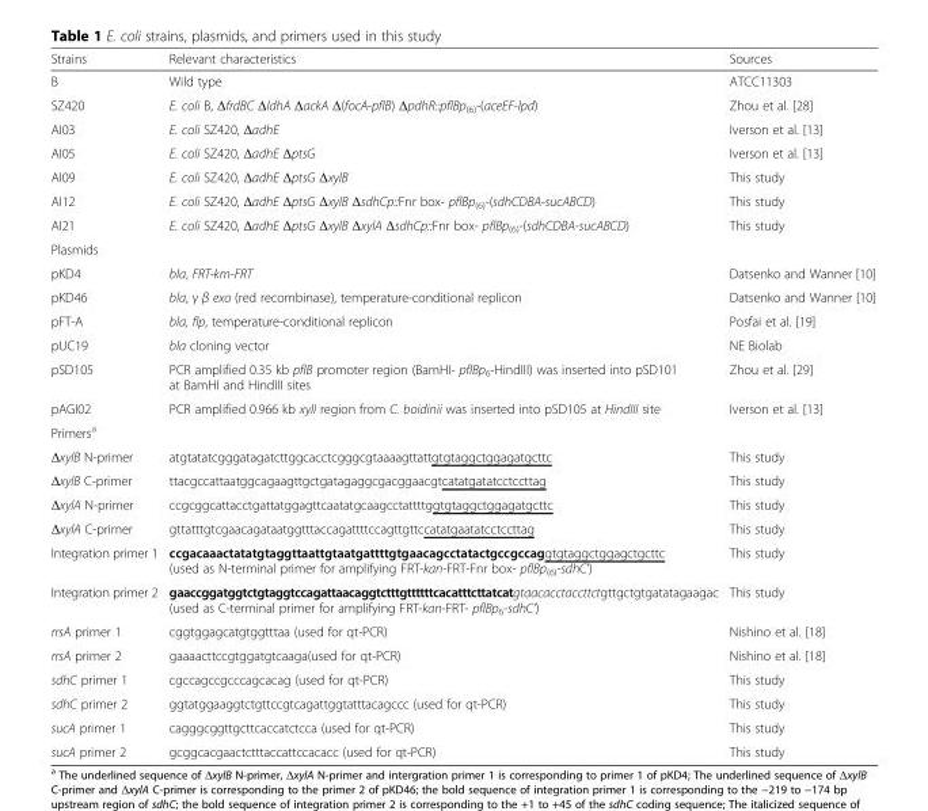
<table><thead><tr><td>Strains</td><td>Relevant characteristics</td><td>Sources</td></tr></thead><tbody><tr><td>B</td><td>Wild type</td><td>ATCC11303</td></tr><tr><td>SZ420</td><td>E. coli B, ΔfrdBC ΔldhA ΔackA Δ(focA-pflB) ΔpdhR::pflBp<sub>(6)</sub>-(aceEF-lpd)</td><td>Zhou et al. [28]</td></tr><tr><td>AI03</td><td>E. coli SZ420, ΔadhE</td><td>Iverson et al. [13]</td></tr><tr><td>AI05</td><td>E. coli SZ420, ΔadhE ΔptsG</td><td>Iverson et al. [13]</td></tr><tr><td>AI09</td><td>E. coli SZ420, ΔadhE ΔptsG ΔxylB</td><td>This study</td></tr><tr><td>AI12</td><td>E. coli SZ420, ΔadhE ΔptsG ΔxylB ΔsdhCp::Fnr box- pflBp<sub>(6)</sub>-(sdhCDBA-sucABCD)</td><td>This study</td></tr><tr><td>AI21</td><td>E. coli SZ420, ΔadhE ΔptsG ΔxylB ΔxylA ΔsdhCp::Fnr box- pflBp<sub>(6)</sub>-(sdhCDBA-sucABCD)</td><td>This study</td></tr><tr><td colspan="3">Plasmids</td></tr><tr><td>pKD4</td><td>bla, FRT-km-FRT</td><td>Datsenko and Wanner [10]</td></tr><tr><td>pKD46</td><td>bla, γ β exo (red recombinase), temperature-conditional replicon</td><td>Datsenko and Wanner [10]</td></tr><tr><td>pFT-A</td><td>bla, flp, temperature-conditional replicon</td><td>Posfai et al. [19]</td></tr><tr><td>pUC19</td><td>bla cloning vector</td><td>NE Biolab</td></tr><tr><td>pSD105</td><td>PCR amplified 0.35 kb pflB promoter region (BamHI- pflBp<sub>6</sub>-HindIII) was inserted into pSD101 at BamHI and HindIII sites</td><td>Zhou et al. [29]</td></tr><tr><td>pAGI02</td><td>PCR amplified 0.966 kb xylI region from C. boidinii was inserted into pSD105 at HindIII site</td><td>Iverson et al. [13]</td></tr><tr><td colspan="3">Primers<sup>a</sup></td></tr><tr><td>ΔxylB N-primer</td><td>atgtatatcgggatagatcttggcacctcgggcgtaaaagttattgtgtaggctggagatgcttc</td><td>This study</td></tr><tr><td>ΔxylB C-primer</td><td>ttacgccattaatggcagaagttgctgatagaggcgacggaacgtcatatgatatcctccttag</td><td>This study</td></tr><tr><td>ΔxylA N-primer</td><td>ccgcggcattacctgattatggagttcaatatgcaagcctattttggtgtaggctggagatgcttc</td><td>This study</td></tr><tr><td>ΔxylA C-primer</td><td>gttatttgtcgaacagataatggtttaccagattttccagttgttccatatgaatatcctccttag</td><td>This study</td></tr><tr><td>Integration primer 1</td><td>ccgacaaactatatgtaggttaattgtaatgattttgtgaacagcctatactgccgccaggtgtaggctggagctgcttc (used as N-terminal primer for amplifying FRT-kan-FRT-Fnr box- pflBp<sub>(6)</sub>-sdhC’)</td><td>This study</td></tr><tr><td>Integration primer 2</td><td>gaaccggatggtctgtaggtccagattaacaggtctttgttttttcacatttcttatcatgtaacacctaccttctgttgctgtgatatagaagac (used as C-terminal primer for amplifying FRT-kan-FRT- pflBp<sub>6</sub>-sdhC’)</td><td>This study</td></tr><tr><td>rrsA primer 1</td><td>cggtggagcatgtggtttaa (used for qt-PCR)</td><td>Nishino et al. [18]</td></tr><tr><td>rrsA primer 2</td><td>gaaaacttccgtggatgtcaaga(used for qt-PCR)</td><td>Nishino et al. [18]</td></tr><tr><td>sdhC primer 1</td><td>cgccagccgcccagcacag (used for qt-PCR)</td><td>This study</td></tr><tr><td>sdhC primer 2</td><td>ggtatggaaggtctgttccgtcagattggtatttacagccc (used for qt-PCR)</td><td>This study</td></tr><tr><td>sucA primer 1</td><td>cagggcggttgcttcaccatctcca (used for qt-PCR)</td><td>This study</td></tr><tr><td>sucA primer 2</td><td>gcggcacgaactctttaccattccacacc (used for qt-PCR)</td><td>This study</td></tr></tbody></table>